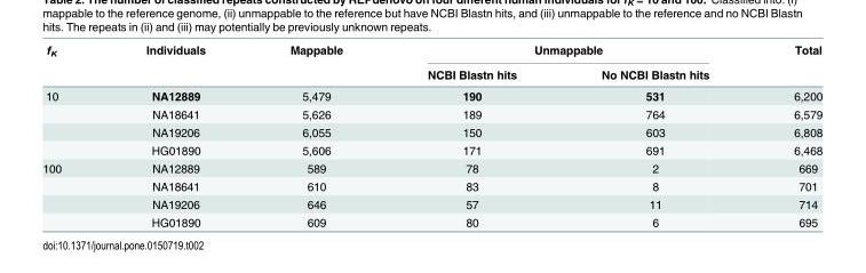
<table><thead><tr><td rowspan="2">f<sub>K</sub></td><td rowspan="2">Individuals</td><td rowspan="2">Mappable</td><td colspan="2">Unmappable</td><td rowspan="2">Total</td></tr><tr><td>NCBI Blastn hits</td><td>No NCBI Blastn hits</td></tr></thead><tbody><tr><td rowspan="4">10</td><td>NA12889</td><td>5,479</td><td>190</td><td>531</td><td>6,200</td></tr><tr><td>NA18641</td><td>5,626</td><td>189</td><td>764</td><td>6,579</td></tr><tr><td>NA19206</td><td>6,055</td><td>150</td><td>603</td><td>6,808</td></tr><tr><td>HG01890</td><td>5,606</td><td>171</td><td>691</td><td>6,468</td></tr><tr><td rowspan="4">100</td><td>NA12889</td><td>589</td><td>78</td><td>2</td><td>669</td></tr><tr><td>NA18641</td><td>610</td><td>83</td><td>8</td><td>701</td></tr><tr><td>NA19206</td><td>646</td><td>57</td><td>11</td><td>714</td></tr><tr><td>HG01890</td><td>609</td><td>80</td><td>6</td><td>695</td></tr></tbody></table>